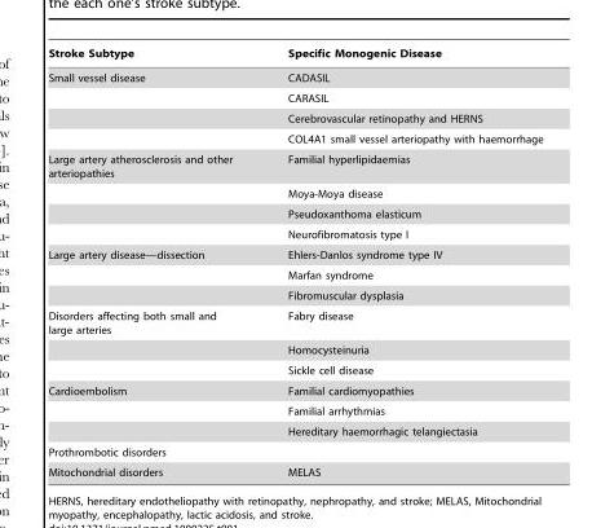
<table><thead><tr><td>Stroke Subtype</td><td>Specific Monogenic Disease</td></tr></thead><tbody><tr><td rowspan="4">Small vessel disease</td><td>CADASIL</td></tr><tr><td>CARASIL</td></tr><tr><td>Cerebrovascular retinopathy and HERNS</td></tr><tr><td>COL4A1 small vessel arteriopathy with haemorrhage</td></tr><tr><td rowspan="4">Large artery atherosclerosis and other arteriopathies</td><td>Familial hyperlipidaemias</td></tr><tr><td>Moya-Moya disease</td></tr><tr><td>Pseudoxanthoma elasticum</td></tr><tr><td>Neurofibromatosis type I</td></tr><tr><td rowspan="3">Large artery disease—dissection</td><td>Ehlers-Danlos syndrome type IV</td></tr><tr><td>Marfan syndrome</td></tr><tr><td>Fibromuscular dysplasia</td></tr><tr><td rowspan="3">Disorders affecting both small and large arteries</td><td>Fabry disease</td></tr><tr><td>Homocysteinuria</td></tr><tr><td>Sickle cell disease</td></tr><tr><td rowspan="3">Cardioembolism</td><td>Familial cardiomyopathies</td></tr><tr><td>Familial arrhythmias</td></tr><tr><td>Hereditary haemorrhagic telangiectasia</td></tr><tr><td colspan="2">Prothrombotic disorders</td></tr><tr><td>Mitochondrial disorders</td><td>MELAS</td></tr></tbody></table>